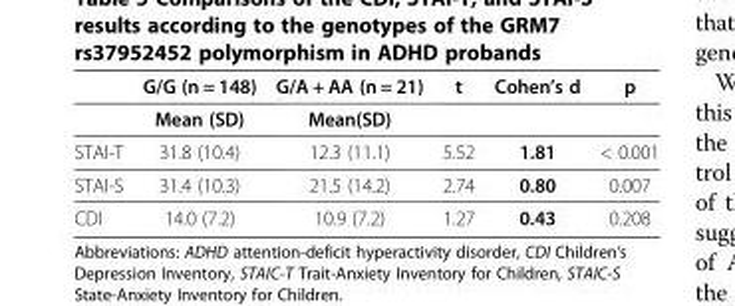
<table><thead><tr><td rowspan="2"></td><td rowspan="2">G/G (n = 148) Mean (SD)</td><td rowspan="2">G/A + AA (n = 21) Mean(SD)</td><td rowspan="2">t</td><td rowspan="2">Cohen’s d</td><td rowspan="2">p</td></tr><tr></tr></thead><tbody><tr><td>STAI-T</td><td>31.8 (10.4)</td><td>12.3 (11.1)</td><td>5.52</td><td>1.81</td><td>&lt; 0.001</td></tr><tr><td>STAI-S</td><td>31.4 (10.3)</td><td>21.5 (14.2)</td><td>2.74</td><td>0.80</td><td>0.007</td></tr><tr><td>CDI</td><td>14.0 (7.2)</td><td>10.9 (7.2)</td><td>1.27</td><td>0.43</td><td>0.208</td></tr></tbody></table>